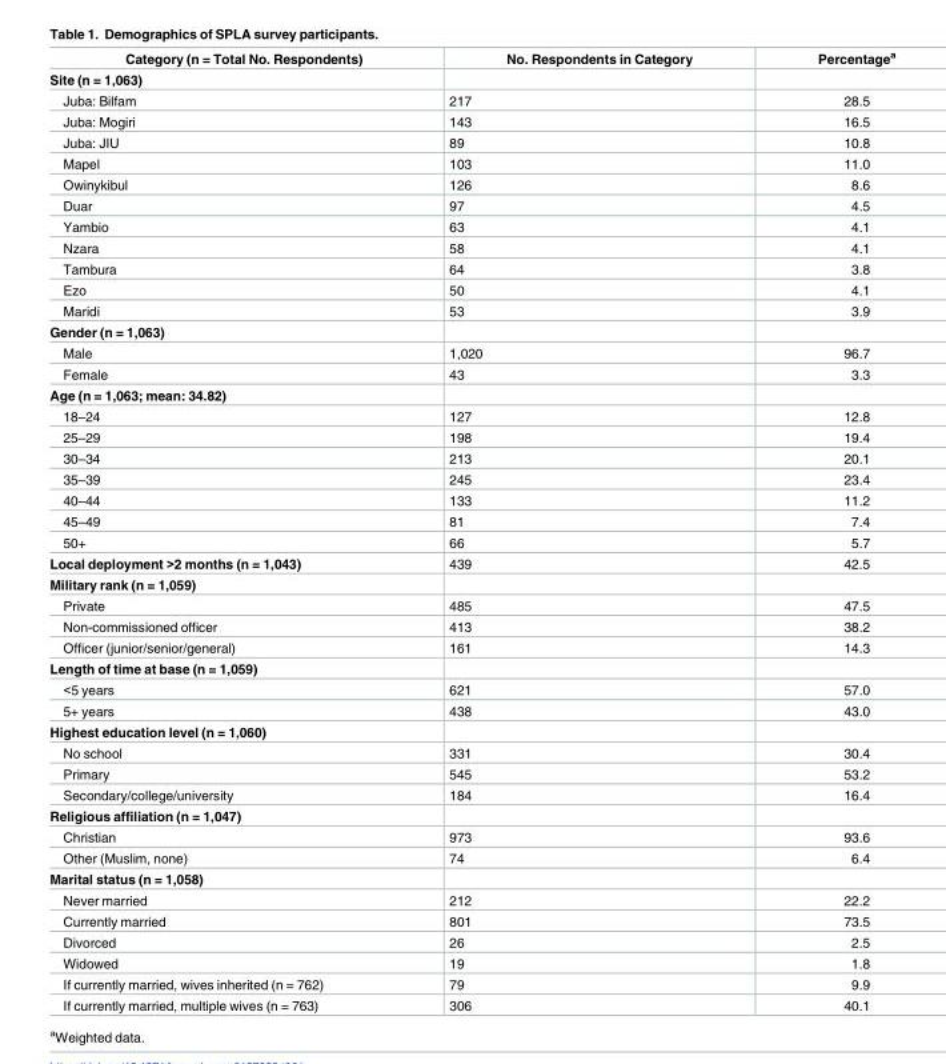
<table><thead><tr><td>Category (n = Total No. Respondents)</td><td>No. Respondents in Category</td><td>Percentage<sup>a</sup></td></tr></thead><tbody><tr><td colspan="3">Site (n = 1,063)</td></tr><tr><td>Juba: Bilfam</td><td>217</td><td>28.5</td></tr><tr><td>Juba: Mogiri</td><td>143</td><td>16.5</td></tr><tr><td>Juba: JIU</td><td>89</td><td>10.8</td></tr><tr><td>Mapel</td><td>103</td><td>11.0</td></tr><tr><td>Owinykibul</td><td>126</td><td>8.6</td></tr><tr><td>Duar</td><td>97</td><td>4.5</td></tr><tr><td>Yambio</td><td>63</td><td>4.1</td></tr><tr><td>Nzara</td><td>58</td><td>4.1</td></tr><tr><td>Tambura</td><td>64</td><td>3.8</td></tr><tr><td>Ezo</td><td>50</td><td>4.1</td></tr><tr><td>Maridi</td><td>53</td><td>3.9</td></tr><tr><td colspan="3">Gender (n = 1,063)</td></tr><tr><td>Male</td><td>1,020</td><td>96.7</td></tr><tr><td>Female</td><td>43</td><td>3.3</td></tr><tr><td colspan="3">Age (n = 1,063; mean: 34.82)</td></tr><tr><td>18–24</td><td>127</td><td>12.8</td></tr><tr><td>25–29</td><td>198</td><td>19.4</td></tr><tr><td>30–34</td><td>213</td><td>20.1</td></tr><tr><td>35–39</td><td>245</td><td>23.4</td></tr><tr><td>40–44</td><td>133</td><td>11.2</td></tr><tr><td>45–49</td><td>81</td><td>7.4</td></tr><tr><td>50+</td><td>66</td><td>5.7</td></tr><tr><td>Local deployment &gt;2 months (n = 1,043)</td><td>439</td><td>42.5</td></tr><tr><td colspan="3">Military rank (n = 1,059)</td></tr><tr><td>Private</td><td>485</td><td>47.5</td></tr><tr><td>Non-commissioned officer</td><td>413</td><td>38.2</td></tr><tr><td>Officer (junior/senior/general)</td><td>161</td><td>14.3</td></tr><tr><td colspan="3">Length of time at base (n = 1,059)</td></tr><tr><td>&lt;5 years</td><td>621</td><td>57.0</td></tr><tr><td>5+ years</td><td>438</td><td>43.0</td></tr><tr><td colspan="3">Highest education level (n = 1,060)</td></tr><tr><td>No school</td><td>331</td><td>30.4</td></tr><tr><td>Primary</td><td>545</td><td>53.2</td></tr><tr><td>Secondary/college/university</td><td>184</td><td>16.4</td></tr><tr><td colspan="3">Religious affiliation (n = 1,047)</td></tr><tr><td>Christian</td><td>973</td><td>93.6</td></tr><tr><td>Other (Muslim, none)</td><td>74</td><td>6.4</td></tr><tr><td colspan="3">Marital status (n = 1,058)</td></tr><tr><td>Never married</td><td>212</td><td>22.2</td></tr><tr><td>Currently married</td><td>801</td><td>73.5</td></tr><tr><td>Divorced</td><td>26</td><td>2.5</td></tr><tr><td>Widowed</td><td>19</td><td>1.8</td></tr><tr><td>If currently married, wives inherited (n = 762)</td><td>79</td><td>9.9</td></tr><tr><td>If currently married, multiple wives (n = 763)</td><td>306</td><td>40.1</td></tr></tbody></table>